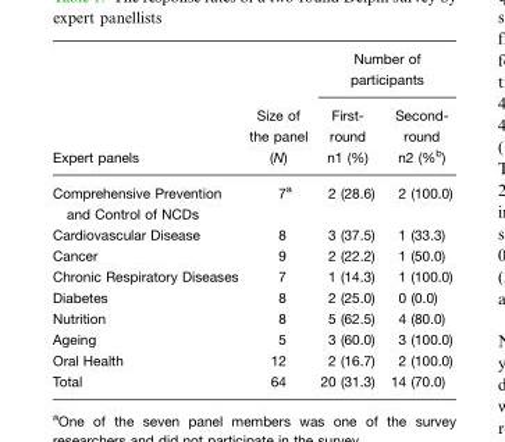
<table><thead><tr><td rowspan="2">Expert panels</td><td rowspan="2">Size of the panel (N)</td><td colspan="2">Number of participants</td></tr><tr><td>First- round n1 (%)</td><td>Second- round n2 (%<sup>b</sup>)</td></tr></thead><tbody><tr><td>Comprehensive Prevention and Control of NCDs</td><td>7<sup>a</sup></td><td>2 (28.6)</td><td>2 (100.0)</td></tr><tr><td>Cardiovascular Disease</td><td>8</td><td>3 (37.5)</td><td>1 (33.3)</td></tr><tr><td>Cancer</td><td>9</td><td>2 (22.2)</td><td>1 (50.0)</td></tr><tr><td>Chronic Respiratory Diseases</td><td>7</td><td>1 (14.3)</td><td>1 (100.0)</td></tr><tr><td>Diabetes</td><td>8</td><td>2 (25.0)</td><td>0 (0.0)</td></tr><tr><td>Nutrition</td><td>8</td><td>5 (62.5)</td><td>4 (80.0)</td></tr><tr><td>Ageing</td><td>5</td><td>3 (60.0)</td><td>3 (100.0)</td></tr><tr><td>Oral Health</td><td>12</td><td>2 (16.7)</td><td>2 (100.0)</td></tr><tr><td>Total</td><td>64</td><td>20 (31.3)</td><td>14 (70.0)</td></tr></tbody></table>